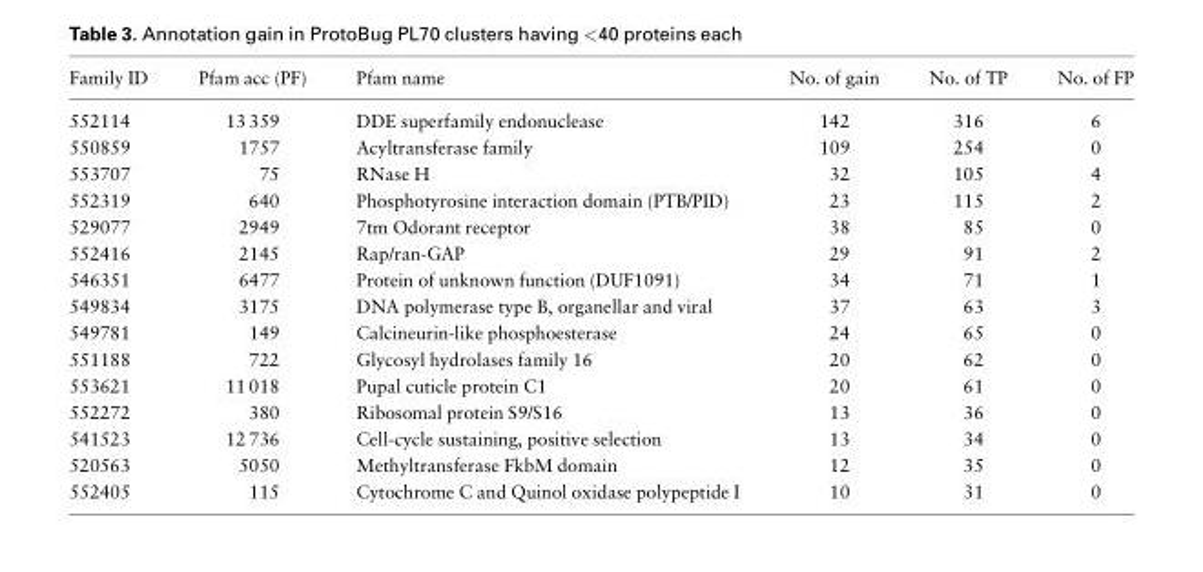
<table><thead><tr><td>Family ID</td><td>Pfam acc (PF)</td><td>Pfam name</td><td>No. of gain</td><td>No. of TP</td><td>No. of FP</td></tr></thead><tbody><tr><td>552114</td><td>13 359</td><td>DDE superfamily endonuclease</td><td>142</td><td>316</td><td>6</td></tr><tr><td>550859</td><td>1757</td><td>Acyltransferase family</td><td>109</td><td>254</td><td>0</td></tr><tr><td>553707</td><td>75</td><td>RNase H</td><td>32</td><td>105</td><td>4</td></tr><tr><td>552319</td><td>640</td><td>Phosphotyrosine interaction domain (PTB/PID)</td><td>23</td><td>115</td><td>2</td></tr><tr><td>529077</td><td>2949</td><td>7tm Odorant receptor</td><td>38</td><td>85</td><td>0</td></tr><tr><td>552416</td><td>2145</td><td>Rap/ran-GAP</td><td>29</td><td>91</td><td>2</td></tr><tr><td>546351</td><td>6477</td><td>Protein of unknown function (DUF1091)</td><td>34</td><td>71</td><td>1</td></tr><tr><td>549834</td><td>3175</td><td>DNA polymerase type B, organellar and viral</td><td>37</td><td>63</td><td>3</td></tr><tr><td>549781</td><td>149</td><td>Calcineurin-like phosphoesterase</td><td>24</td><td>65</td><td>0</td></tr><tr><td>551188</td><td>722</td><td>Glycosyl hydrolases family 16</td><td>20</td><td>62</td><td>0</td></tr><tr><td>553621</td><td>11 018</td><td>Pupal cuticle protein C1</td><td>20</td><td>61</td><td>0</td></tr><tr><td>552272</td><td>380</td><td>Ribosomal protein S9/S16</td><td>13</td><td>36</td><td>0</td></tr><tr><td>541523</td><td>12 736</td><td>Cell-cycle sustaining, positive selection</td><td>13</td><td>34</td><td>0</td></tr><tr><td>520563</td><td>5050</td><td>Methyltransferase FkbM domain</td><td>12</td><td>35</td><td>0</td></tr><tr><td>552405</td><td>115</td><td>Cytochrome C and Quinol oxidase polypeptide I</td><td>10</td><td>31</td><td>0</td></tr></tbody></table>